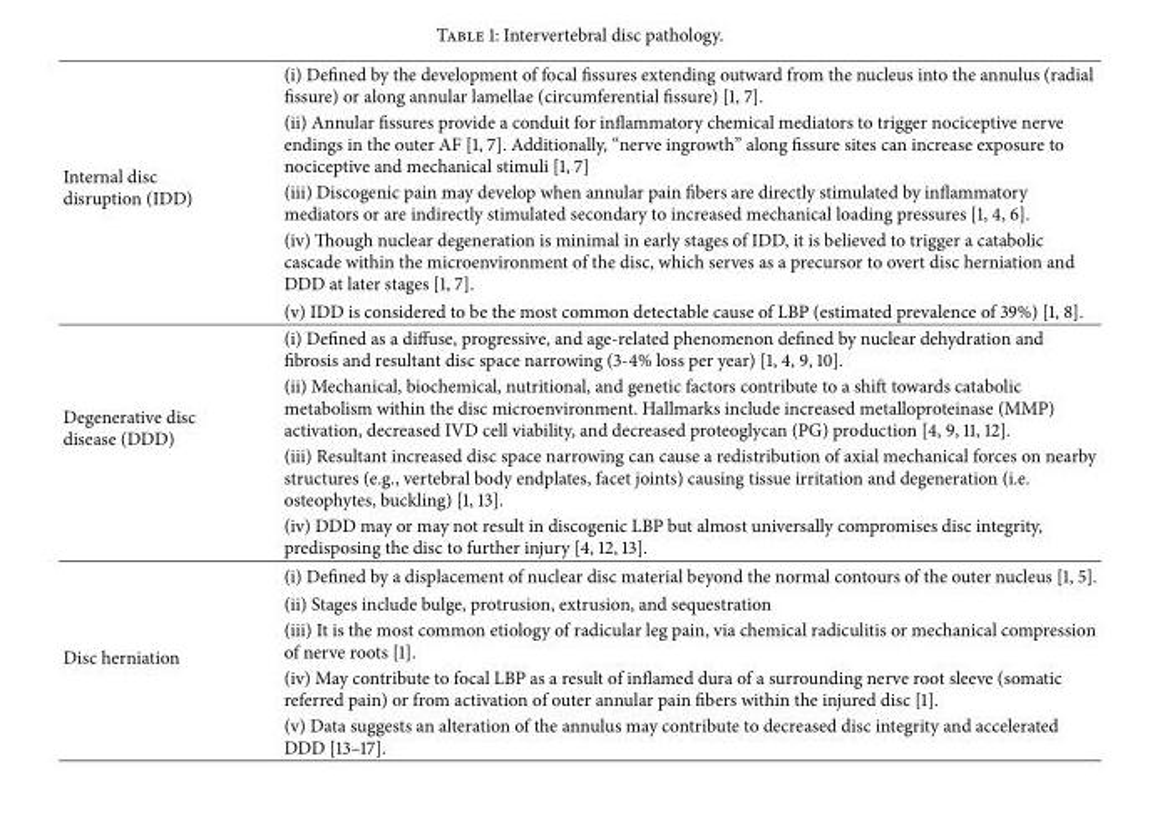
<table><tbody><tr><td rowspan="5">Internal disc disruption (IDD)</td><td>(i) Defined by the development of focal fissures extending outward from the nucleus into the annulus (radial fissure) or along annular lamellae (circumferential fissure) [1, 7].</td></tr><tr><td>(ii) Annular fissures provide a conduit for inflammatory chemical mediators to trigger nociceptive nerve endings in the outer AF [1, 7]. Additionally, “nerve ingrowth” along fissure sites can increase exposure to nociceptive and mechanical stimuli [1, 7]</td></tr><tr><td>(iii) Discogenic pain may develop when annular pain fibers are directly stimulated by inflammatory mediators or are indirectly stimulated secondary to increased mechanical loading pressures [1, 4, 6].</td></tr><tr><td>(iv) Though nuclear degeneration is minimal in early stages of IDD, it is believed to trigger a catabolic cascade within the microenvironment of the disc, which serves as a precursor to overt disc herniation and DDD at later stages [1, 7].</td></tr><tr><td>(v) IDD is considered to be the most common detectable cause of LBP (estimated prevalence of 39%) [1, 8].</td></tr><tr><td rowspan="4">Degenerative disc disease (DDD)</td><td>(i) Defined as a diffuse, progressive, and age-related phenomenon defined by nuclear dehydration and fibrosis and resultant disc space narrowing (3-4% loss per year) [1, 4, 9, 10].</td></tr><tr><td>(ii) Mechanical, biochemical, nutritional, and genetic factors contribute to a shift towards catabolic metabolism within the disc microenvironment. Hallmarks include increased metalloproteinase (MMP) activation, decreased IVD cell viability, and decreased proteoglycan (PG) production [4, 9, 11, 12].</td></tr><tr><td>(iii) Resultant increased disc space narrowing can cause a redistribution of axial mechanical forces on nearby structures (e.g., vertebral body endplates, facet joints) causing tissue irritation and degeneration (i.e. osteophytes, buckling) [1, 13].</td></tr><tr><td>(iv) DDD may or may not result in discogenic LBP but almost universally compromises disc integrity, predisposing the disc to further injury [4, 12, 13].</td></tr><tr><td rowspan="5">Disc herniation</td><td>(i) Defined by a displacement of nuclear disc material beyond the normal contours of the outer nucleus [1, 5].</td></tr><tr><td>(ii) Stages include bulge, protrusion, extrusion, and sequestration</td></tr><tr><td>(iii) It is the most common etiology of radicular leg pain, via chemical radiculitis or mechanical compression of nerve roots [1].</td></tr><tr><td>(iv) May contribute to focal LBP as a result of inflamed dura of a surrounding nerve root sleeve (somatic referred pain) or from activation of outer annular pain fibers within the injured disc [1].</td></tr><tr><td>(v) Data suggests an alteration of the annulus may contribute to decreased disc integrity and accelerated DDD [13–17].</td></tr></tbody></table>